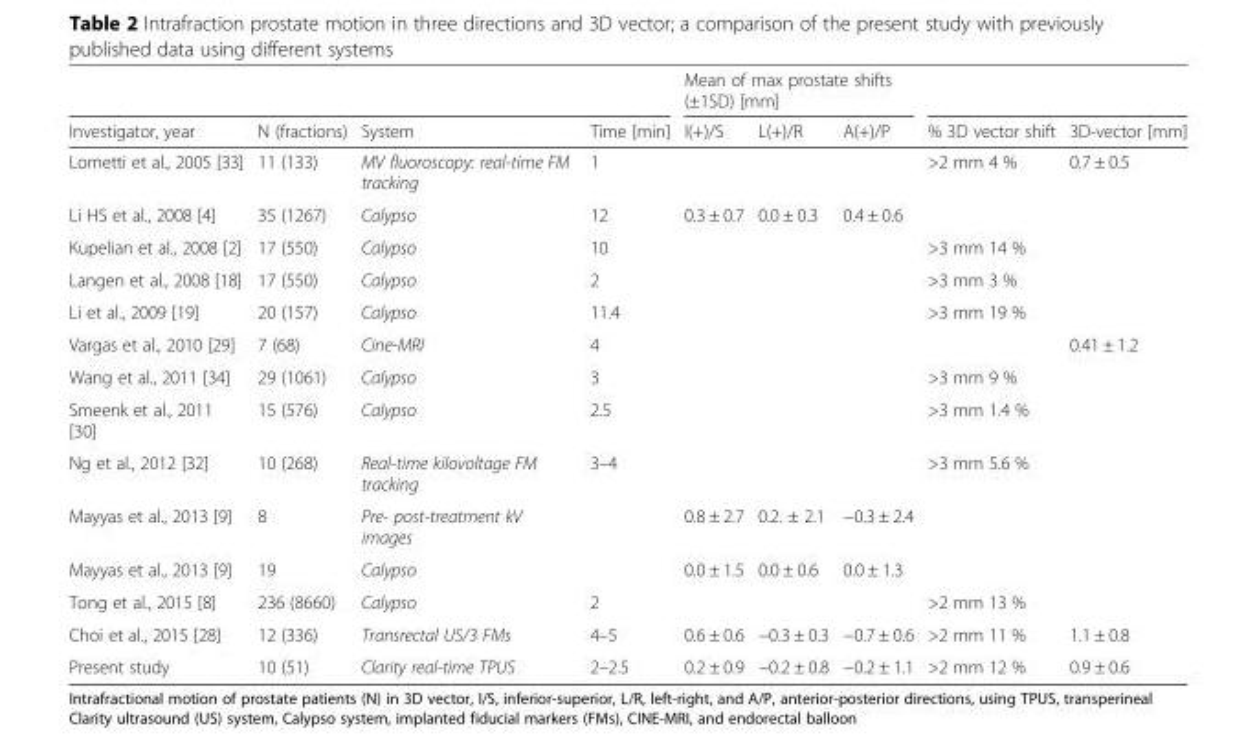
<table><thead><tr><td rowspan="2">Investigator, year</td><td rowspan="2">N (fractions)</td><td rowspan="2">System</td><td rowspan="2">Time [min]</td><td colspan="3">Mean of max prostate shifts (±1SD) [mm]</td><td rowspan="2">% 3D vector shift</td><td rowspan="2">3D-vector [mm]</td></tr><tr><td>I(+)/S</td><td>L(+)/R</td><td>A(+)/P</td></tr></thead><tbody><tr><td>Lometti et al., 2005 [33]</td><td>11 (133)</td><td>MV fluoroscopy: real-time FM tracking</td><td>1</td><td></td><td></td><td></td><td>&gt;2 mm 4 %</td><td>0.7 ± 0.5</td></tr><tr><td>Li HS et al., 2008 [4]</td><td>35 (1267)</td><td>Calypso</td><td>12</td><td>0.3 ± 0.7</td><td>0.0 ± 0.3</td><td>0.4 ± 0.6</td><td></td><td></td></tr><tr><td>Kupelian et al., 2008 [2]</td><td>17 (550)</td><td>Calypso</td><td>10</td><td></td><td></td><td></td><td>&gt;3 mm 14 %</td><td></td></tr><tr><td>Langen et al., 2008 [18]</td><td>17 (550)</td><td>Calypso</td><td>2</td><td></td><td></td><td></td><td>&gt;3 mm 3 %</td><td></td></tr><tr><td>Li et al., 2009 [19]</td><td>20 (157)</td><td>Calypso</td><td>11.4</td><td></td><td></td><td></td><td>&gt;3 mm 19 %</td><td></td></tr><tr><td>Vargas et al., 2010 [29]</td><td>7 (68)</td><td>Cine-MRI</td><td>4</td><td></td><td></td><td></td><td></td><td>0.41 ± 1.2</td></tr><tr><td>Wang et al., 2011 [34]</td><td>29 (1061)</td><td>Calypso</td><td>3</td><td></td><td></td><td></td><td>&gt;3 mm 9 %</td><td></td></tr><tr><td>Smeenk et al., 2011 [30]</td><td>15 (576)</td><td>Calypso</td><td>2.5</td><td></td><td></td><td></td><td>&gt;3 mm 1.4 %</td><td></td></tr><tr><td>Ng et al., 2012 [32]</td><td>10 (268)</td><td>Real-time kilovoltage FM tracking</td><td>3–4</td><td></td><td></td><td></td><td>&gt;3 mm 5.6 %</td><td></td></tr><tr><td>Mayyas et al., 2013 [9]</td><td>8</td><td>Pre- post-treatment kV images</td><td></td><td>0.8 ± 2.7</td><td>0.2. ± 2.1</td><td>−0.3 ± 2.4</td><td></td><td></td></tr><tr><td>Mayyas et al., 2013 [9]</td><td>19</td><td>Calypso</td><td></td><td>0.0 ± 1.5</td><td>0.0 ± 0.6</td><td>0.0 ± 1.3</td><td></td><td></td></tr><tr><td>Tong et al., 2015 [8]</td><td>236 (8660)</td><td>Calypso</td><td>2</td><td></td><td></td><td></td><td>&gt;2 mm 13 %</td><td></td></tr><tr><td>Choi et al., 2015 [28]</td><td>12 (336)</td><td>Transrectal US/3 FMs</td><td>4–5</td><td>0.6 ± 0.6</td><td>−0.3 ± 0.3</td><td>−0.7 ± 0.6</td><td>&gt;2 mm 11 %</td><td>1.1 ± 0.8</td></tr><tr><td>Present study</td><td>10 (51)</td><td>Clarity real-time TPUS</td><td>2–2.5</td><td>0.2 ± 0.9</td><td>−0.2 ± 0.8</td><td>−0.2 ± 1.1</td><td>&gt;2 mm 12 %</td><td>0.9 ± 0.6</td></tr></tbody></table>